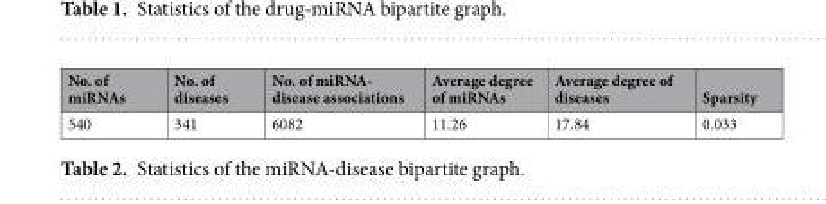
<table><thead><tr><td>No. of miRNAs</td><td>No. of diseases</td><td>No. of miRNA- disease associations</td><td>Average degree of miRNAs</td><td>Average degree of diseases</td><td>Sparsity</td></tr></thead><tbody><tr><td>540</td><td>341</td><td>6082</td><td>11.26</td><td>17.84</td><td>0.033</td></tr></tbody></table>